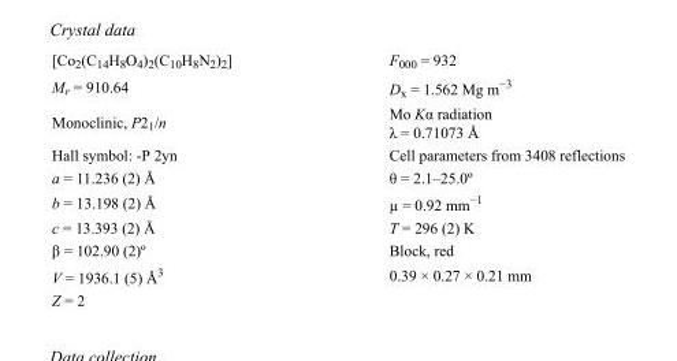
<table><tbody><tr><td>[Co<sub>2</sub>(C<sub>14</sub>H<sub>8</sub>O<sub>4</sub>)<sub>2</sub>(C<sub>10</sub>H<sub>8</sub>N<sub>2</sub>)<sub>2</sub>]</td><td>F<sub>000</sub> = 932</td></tr><tr><td>M<sub>r</sub> = 910.64</td><td>D<sub>x</sub> = 1.562 Mg m<sup>−3</sup></td></tr><tr><td>Monoclinic, P2<sub>1</sub>/n</td><td>Mo Kα radiation λ = 0.71073 Å</td></tr><tr><td>Hall symbol: -P 2yn</td><td>Cell parameters from 3408 reflections</td></tr><tr><td>a = 11.236 (2) Å</td><td>θ = 2.1–25.0º</td></tr><tr><td>b = 13.198 (2) Å</td><td>µ = 0.92 mm<sup>−1</sup></td></tr><tr><td>c = 13.393 (2) Å</td><td>T = 296 (2) K</td></tr><tr><td>β = 102.90 (2)º</td><td>Block, red</td></tr><tr><td>V = 1936.1 (5) Å<sup>3</sup></td><td>0.39 × 0.27 × 0.21 mm</td></tr><tr><td>Z = 2</td><td></td></tr></tbody></table>